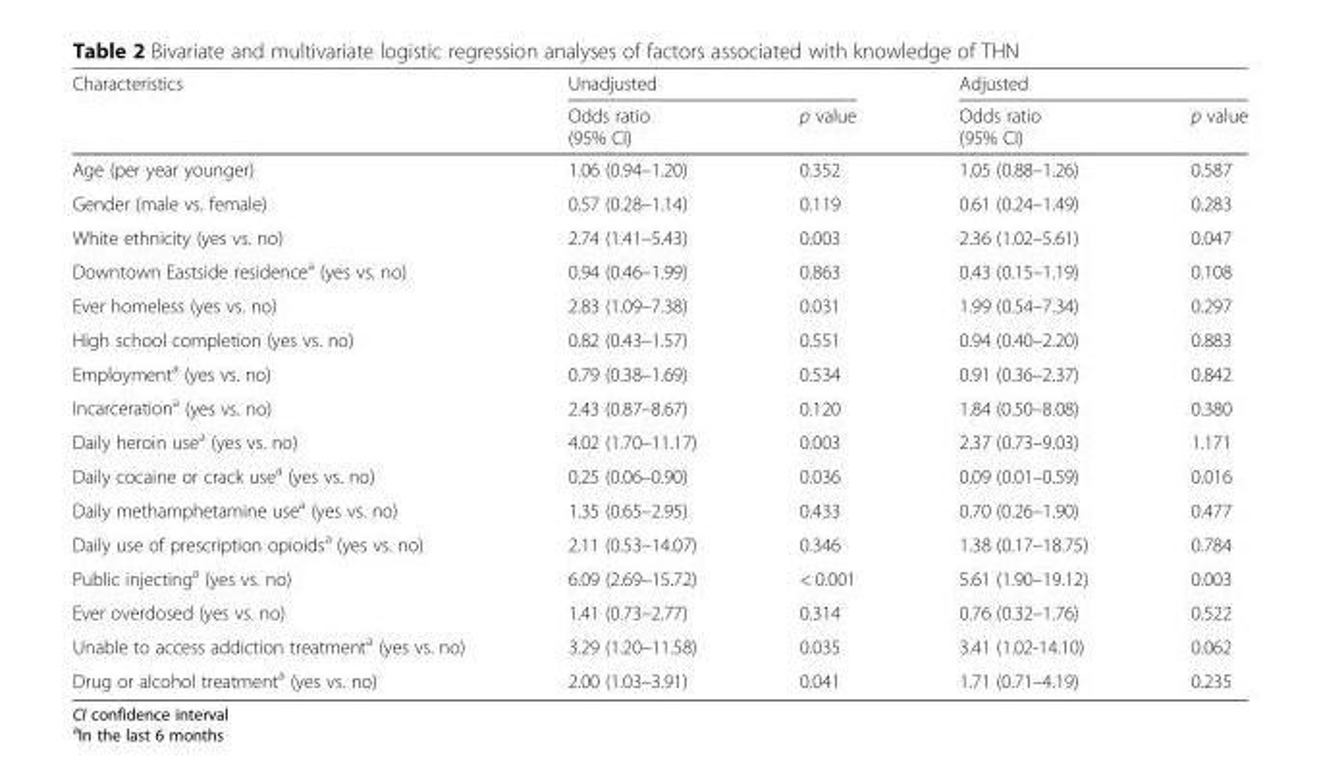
<table><thead><tr><td rowspan="2">Characteristics</td><td colspan="2">Unadjusted</td><td colspan="2">Adjusted</td></tr><tr><td>Odds ratio (95% CI)</td><td>p value</td><td>Odds ratio (95% CI)</td><td>p value</td></tr></thead><tbody><tr><td>Age (per year younger)</td><td>1.06 (0.94–1.20)</td><td>0.352</td><td>1.05 (0.88–1.26)</td><td>0.587</td></tr><tr><td>Gender (male vs. female)</td><td>0.57 (0.28–1.14)</td><td>0.119</td><td>0.61 (0.24–1.49)</td><td>0.283</td></tr><tr><td>White ethnicity (yes vs. no)</td><td>2.74 (1.41–5.43)</td><td>0.003</td><td>2.36 (1.02–5.61)</td><td>0.047</td></tr><tr><td>Downtown Eastside residence<sup>a</sup> (yes vs. no)</td><td>0.94 (0.46–1.99)</td><td>0.863</td><td>0.43 (0.15–1.19)</td><td>0.108</td></tr><tr><td>Ever homeless (yes vs. no)</td><td>2.83 (1.09–7.38)</td><td>0.031</td><td>1.99 (0.54–7.34)</td><td>0.297</td></tr><tr><td>High school completion (yes vs. no)</td><td>0.82 (0.43–1.57)</td><td>0.551</td><td>0.94 (0.40–2.20)</td><td>0.883</td></tr><tr><td>Employment<sup>a</sup> (yes vs. no)</td><td>0.79 (0.38–1.69)</td><td>0.534</td><td>0.91 (0.36–2.37)</td><td>0.842</td></tr><tr><td>Incarceration<sup>a</sup> (yes vs. no)</td><td>2.43 (0.87–8.67)</td><td>0.120</td><td>1.84 (0.50–8.08)</td><td>0.380</td></tr><tr><td>Daily heroin use<sup>a</sup> (yes vs. no)</td><td>4.02 (1.70–11.17)</td><td>0.003</td><td>2.37 (0.73–9.03)</td><td>1.171</td></tr><tr><td>Daily cocaine or crack use<sup>a</sup> (yes vs. no)</td><td>0.25 (0.06–0.90)</td><td>0.036</td><td>0.09 (0.01–0.59)</td><td>0.016</td></tr><tr><td>Daily methamphetamine use<sup>a</sup> (yes vs. no)</td><td>1.35 (0.65–2.95)</td><td>0.433</td><td>0.70 (0.26–1.90)</td><td>0.477</td></tr><tr><td>Daily use of prescription opioids<sup>a</sup> (yes vs. no)</td><td>2.11 (0.53–14.07)</td><td>0.346</td><td>1.38 (0.17–18.75)</td><td>0.784</td></tr><tr><td>Public injecting<sup>a</sup> (yes vs. no)</td><td>6.09 (2.69–15.72)</td><td>&lt; 0.001</td><td>5.61 (1.90–19.12)</td><td>0.003</td></tr><tr><td>Ever overdosed (yes vs. no)</td><td>1.41 (0.73–2.77)</td><td>0.314</td><td>0.76 (0.32–1.76)</td><td>0.522</td></tr><tr><td>Unable to access addiction treatment<sup>a</sup> (yes vs. no)</td><td>3.29 (1.20–11.58)</td><td>0.035</td><td>3.41 (1.02-14.10)</td><td>0.062</td></tr><tr><td>Drug or alcohol treatment<sup>a</sup> (yes vs. no)</td><td>2.00 (1.03–3.91)</td><td>0.041</td><td>1.71 (0.71–4.19)</td><td>0.235</td></tr></tbody></table>